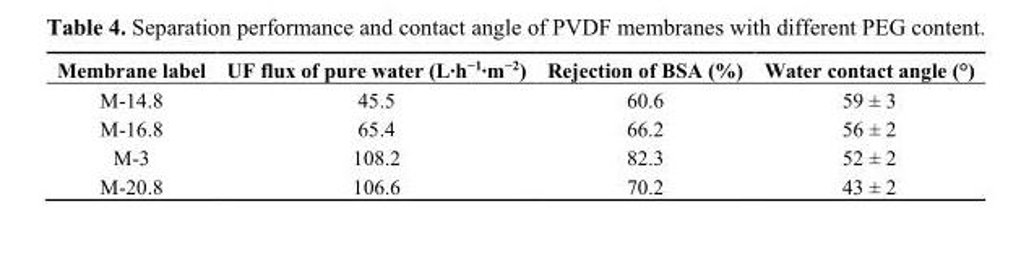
<table><thead><tr><td>Membrane label</td><td>UF flux of pure water (L∙h<sup>−1</sup>∙m<sup>−2</sup>)</td><td>Rejection of BSA (%)</td><td>Water contact angle (°)</td></tr></thead><tbody><tr><td>M-14.8</td><td>45.5</td><td>60.6</td><td>59 ± 3</td></tr><tr><td>M-16.8</td><td>65.4</td><td>66.2</td><td>56 ± 2</td></tr><tr><td>M-3</td><td>108.2</td><td>82.3</td><td>52 ± 2</td></tr><tr><td>M-20.8</td><td>106.6</td><td>70.2</td><td>43 ± 2</td></tr></tbody></table>